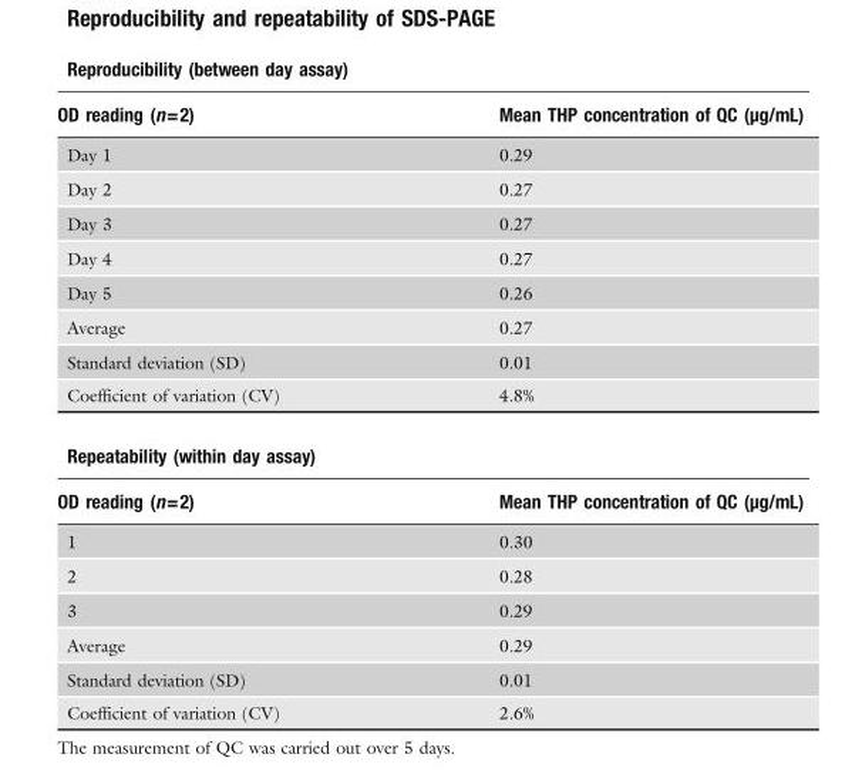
<table><thead><tr><td colspan="2">Reproducibility (between day assay)</td></tr><tr><td>OD reading (n=2)</td><td>Mean THP concentration of QC (μg/mL)</td></tr></thead><tbody><tr><td>Day 1</td><td>0.29</td></tr><tr><td>Day 2</td><td>0.27</td></tr><tr><td>Day 3</td><td>0.27</td></tr><tr><td>Day 4</td><td>0.27</td></tr><tr><td>Day 5</td><td>0.26</td></tr><tr><td>Average</td><td>0.27</td></tr><tr><td>Standard deviation (SD)</td><td>0.01</td></tr><tr><td>Coefficient of variation (CV)</td><td>4.8%</td></tr><tr><td colspan="2">Repeatability (within day assay)</td></tr><tr><td>OD reading (n=2)</td><td>Mean THP concentration of QC (μg/mL)</td></tr><tr><td>1</td><td>0.30</td></tr><tr><td>2</td><td>0.28</td></tr><tr><td>3</td><td>0.29</td></tr><tr><td>Average</td><td>0.29</td></tr><tr><td>Standard deviation (SD)</td><td>0.01</td></tr><tr><td>Coefficient of variation (CV)</td><td>2.6%</td></tr></tbody></table>